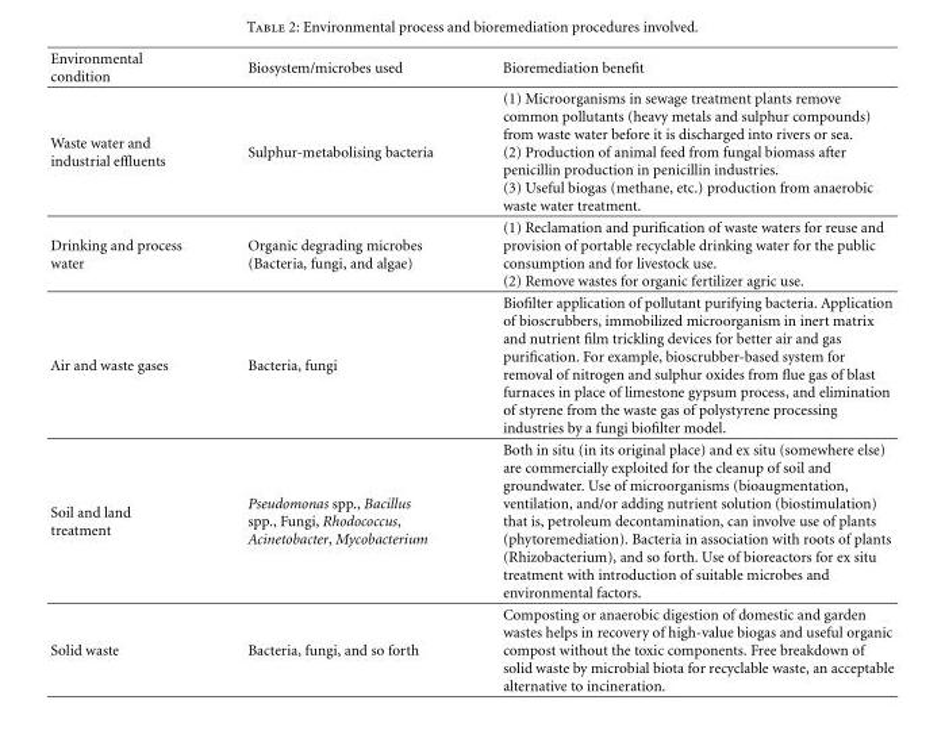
<table><thead><tr><td>Environmental condition</td><td>Biosystem/microbes used</td><td>Bioremediation benefit</td></tr></thead><tbody><tr><td>Waste water and industrial effluents</td><td>Sulphur-metabolising bacteria</td><td>(1) Microorganisms in sewage treatment plants remove common pollutants (heavy metals and sulphur compounds) from waste water before it is discharged into rivers or sea. (2) Production of animal feed from fungal biomass after penicillin production in penicillin industries. (3) Useful biogas (methane, etc.) production from anaerobic waste water treatment.</td></tr><tr><td>Drinking and process water</td><td>Organic degrading microbes (Bacteria, fungi, and algae)</td><td>(1) Reclamation and purification of waste waters for reuse and provision of portable recyclable drinking water for the public consumption and for livestock use. (2) Remove wastes for organic fertilizer agric use.</td></tr><tr><td>Air and waste gases</td><td>Bacteria, fungi</td><td>Biofilter application of pollutant purifying bacteria. Application of bioscrubbers, immobilized microorganism in inert matrix and nutrient film trickling devices for better air and gas purification. For example, bioscrubber-based system for removal of nitrogen and sulphur oxides from flue gas of blast furnaces in place of limestone gypsum process, and elimination of styrene from the waste gas of polystyrene processing industries by a fungi biofilter model.</td></tr><tr><td>Soil and land treatment</td><td>Pseudomonas spp., Bacillus spp., Fungi, Rhodococcus, Acinetobacter, Mycobacterium</td><td>Both in situ (in its original place) and ex situ (somewhere else) are commercially exploited for the cleanup of soil and groundwater. Use of microorganisms (bioaugmentation, ventilation, and/or adding nutrient solution (biostimulation) that is, petroleum decontamination, can involve use of plants (phytoremediation). Bacteria in association with roots of plants (Rhizobacterium), and so forth. Use of bioreactors for ex situ treatment with introduction of suitable microbes and environmental factors.</td></tr><tr><td>Solid waste</td><td>Bacteria, fungi, and so forth</td><td>Composting or anaerobic digestion of domestic and garden wastes helps in recovery of high-value biogas and useful organic compost without the toxic components. Free breakdown of solid waste by microbial biota for recyclable waste, an acceptable alternative to incineration.</td></tr></tbody></table>